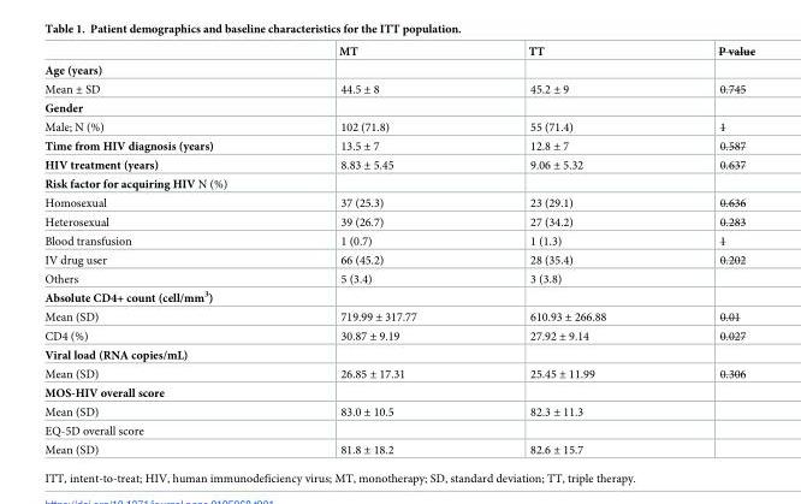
<table><thead><tr><td></td><td>MT</td><td>TT</td><td>P value</td></tr></thead><tbody><tr><td colspan="4">Age (years)</td></tr><tr><td>Mean ± SD</td><td>44.5 ± 8</td><td>45.2 ± 9</td><td>0.745</td></tr><tr><td colspan="4">Gender</td></tr><tr><td>Male; N (%)</td><td>102 (71.8)</td><td>55 (71.4)</td><td>1</td></tr><tr><td>Time from HIV diagnosis (years)</td><td>13.5 ± 7</td><td>12.8 ± 7</td><td>0.587</td></tr><tr><td>HIV treatment (years)</td><td>8.83 ± 5.45</td><td>9.06 ± 5.32</td><td>0.637</td></tr><tr><td colspan="4">Risk factor for acquiring HIV N (%)</td></tr><tr><td>Homosexual</td><td>37 (25.3)</td><td>23 (29.1)</td><td>0.636</td></tr><tr><td>Heterosexual</td><td>39 (26.7)</td><td>27 (34.2)</td><td>0.283</td></tr><tr><td>Blood transfusion</td><td>1 (0.7)</td><td>1 (1.3)</td><td>1</td></tr><tr><td>IV drug user</td><td>66 (45.2)</td><td>28 (35.4)</td><td>0.202</td></tr><tr><td>Others</td><td>5 (3.4)</td><td>3 (3.8)</td><td></td></tr><tr><td colspan="4">Absolute CD4+ count (cell/mm<sup>3</sup>)</td></tr><tr><td>Mean (SD)</td><td>719.99 ± 317.77</td><td>610.93 ± 266.88</td><td>0.01</td></tr><tr><td>CD4 (%)</td><td>30.87 ± 9.19</td><td>27.92 ± 9.14</td><td>0.027</td></tr><tr><td colspan="4">Viral load (RNA copies/mL)</td></tr><tr><td>Mean (SD)</td><td>26.85 ± 17.31</td><td>25.45 ± 11.99</td><td>0.306</td></tr><tr><td colspan="4">MOS-HIV overall score</td></tr><tr><td>Mean (SD)</td><td>83.0 ± 10.5</td><td>82.3 ± 11.3</td><td></td></tr><tr><td colspan="4">EQ-5D overall score</td></tr><tr><td>Mean (SD)</td><td>81.8 ± 18.2</td><td>82.6 ± 15.7</td><td></td></tr></tbody></table>